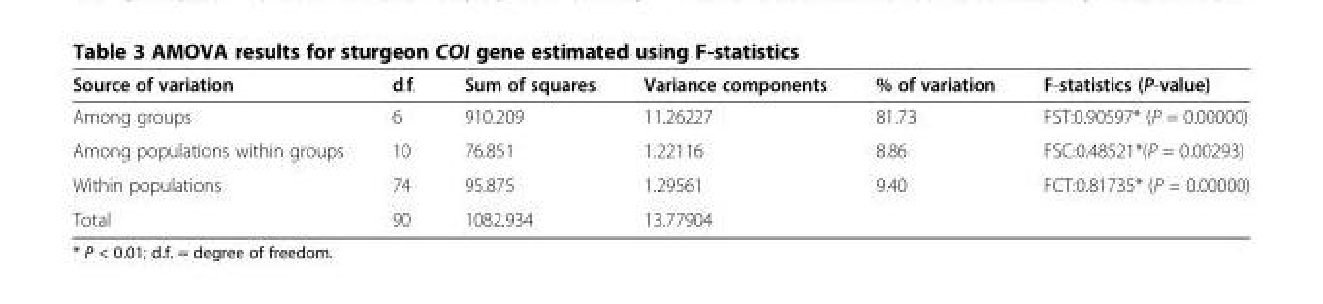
<table><thead><tr><td>Source of variation</td><td>d.f.</td><td>Sum of squares</td><td>Variance components</td><td>% of variation</td><td>F-statistics (P-value)</td></tr></thead><tbody><tr><td>Among groups</td><td>6</td><td>910.209</td><td>11.26227</td><td>81.73</td><td>FST:0.90597* (P = 0.00000)</td></tr><tr><td>Among populations within groups</td><td>10</td><td>76.851</td><td>1.22116</td><td>8.86</td><td>FSC:0.48521*(P = 0.00293)</td></tr><tr><td>Within populations</td><td>74</td><td>95.875</td><td>1.29561</td><td>9.40</td><td>FCT:0.81735* (P = 0.00000)</td></tr><tr><td>Total</td><td>90</td><td>1082.934</td><td>13.77904</td><td></td><td></td></tr></tbody></table>